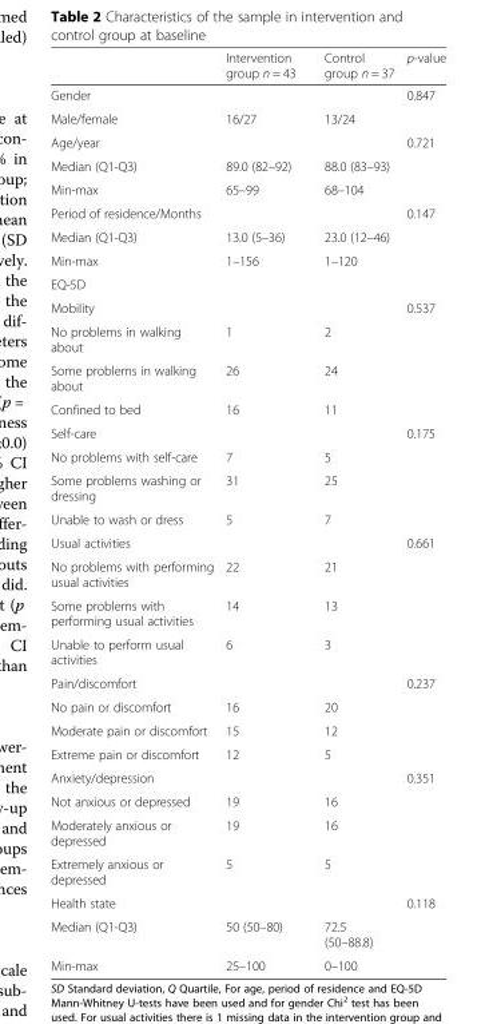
<table><thead><tr><td></td><td>Intervention group n = 43</td><td>Control group n = 37</td><td>p-value</td></tr></thead><tbody><tr><td>Gender</td><td></td><td></td><td>0.847</td></tr><tr><td>Male/female</td><td>16/27</td><td>13/24</td><td></td></tr><tr><td>Age/year</td><td></td><td></td><td>0.721</td></tr><tr><td>Median (Q1-Q3)</td><td>89.0 (82–92)</td><td>88.0 (83–93)</td><td></td></tr><tr><td>Min-max</td><td>65–99</td><td>68–104</td><td></td></tr><tr><td>Period of residence/Months</td><td></td><td></td><td>0.147</td></tr><tr><td>Median (Q1-Q3)</td><td>13.0 (5–36)</td><td>23.0 (12–46)</td><td></td></tr><tr><td>Min-max</td><td>1–156</td><td>1–120</td><td></td></tr><tr><td colspan="4">EQ-5D</td></tr><tr><td>Mobility</td><td></td><td></td><td>0.537</td></tr><tr><td>No problems in walking about</td><td>1</td><td>2</td><td></td></tr><tr><td>Some problems in walking about</td><td>26</td><td>24</td><td></td></tr><tr><td>Confined to bed</td><td>16</td><td>11</td><td></td></tr><tr><td>Self-care</td><td></td><td></td><td>0.175</td></tr><tr><td>No problems with self-care</td><td>7</td><td>5</td><td></td></tr><tr><td>Some problems washing or dressing</td><td>31</td><td>25</td><td></td></tr><tr><td>Unable to wash or dress</td><td>5</td><td>7</td><td></td></tr><tr><td>Usual activities</td><td></td><td></td><td>0.661</td></tr><tr><td>No problems with performing usual activities</td><td>22</td><td>21</td><td></td></tr><tr><td>Some problems with performing usual activities</td><td>14</td><td>13</td><td></td></tr><tr><td>Unable to perform usual activities</td><td>6</td><td>3</td><td></td></tr><tr><td>Pain/discomfort</td><td></td><td></td><td>0.237</td></tr><tr><td>No pain or discomfort</td><td>16</td><td>20</td><td></td></tr><tr><td>Moderate pain or discomfort</td><td>15</td><td>12</td><td></td></tr><tr><td>Extreme pain or discomfort</td><td>12</td><td>5</td><td></td></tr><tr><td>Anxiety/depression</td><td></td><td></td><td>0.351</td></tr><tr><td>Not anxious or depressed</td><td>19</td><td>16</td><td></td></tr><tr><td>Moderately anxious or depressed</td><td>19</td><td>16</td><td></td></tr><tr><td>Extremely anxious or depressed</td><td>5</td><td>5</td><td></td></tr><tr><td>Health state</td><td></td><td></td><td>0.118</td></tr><tr><td>Median (Q1-Q3)</td><td>50 (50–80)</td><td>72.5 (50–88.8)</td><td></td></tr><tr><td>Min-max</td><td>25–100</td><td>0–100</td><td></td></tr></tbody></table>